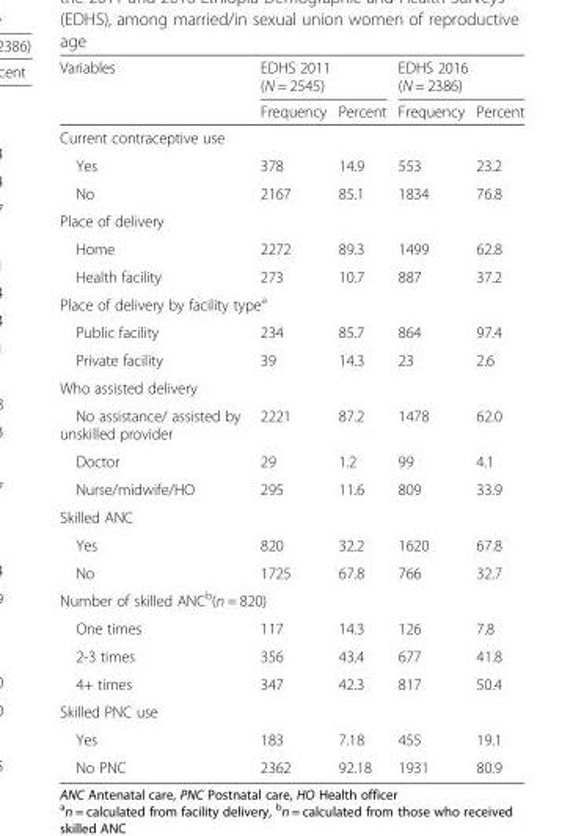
<table><thead><tr><td rowspan="2">Variables</td><td colspan="2">EDHS 2011 (N = 2545)</td><td colspan="2">EDHS 2016 (N = 2386)</td></tr><tr><td>Frequency</td><td>Percent</td><td>Frequency</td><td>Percent</td></tr></thead><tbody><tr><td colspan="5">Current contraceptive use</td></tr><tr><td>Yes</td><td>378</td><td>14.9</td><td>553</td><td>23.2</td></tr><tr><td>No</td><td>2167</td><td>85.1</td><td>1834</td><td>76.8</td></tr><tr><td colspan="5">Place of delivery</td></tr><tr><td>Home</td><td>2272</td><td>89.3</td><td>1499</td><td>62.8</td></tr><tr><td>Health facility</td><td>273</td><td>10.7</td><td>887</td><td>37.2</td></tr><tr><td colspan="5">Place of delivery by facility type<sup>a</sup></td></tr><tr><td>Public facility</td><td>234</td><td>85.7</td><td>864</td><td>97.4</td></tr><tr><td>Private facility</td><td>39</td><td>14.3</td><td>23</td><td>2.6</td></tr><tr><td colspan="5">Who assisted delivery</td></tr><tr><td>No assistance/ assisted by unskilled provider</td><td>2221</td><td>87.2</td><td>1478</td><td>62.0</td></tr><tr><td>Doctor</td><td>29</td><td>1.2</td><td>99</td><td>4.1</td></tr><tr><td>Nurse/midwife/HO</td><td>295</td><td>11.6</td><td>809</td><td>33.9</td></tr><tr><td colspan="5">Skilled ANC</td></tr><tr><td>Yes</td><td>820</td><td>32.2</td><td>1620</td><td>67.8</td></tr><tr><td>No</td><td>1725</td><td>67.8</td><td>766</td><td>32.7</td></tr><tr><td colspan="5">Number of skilled ANC<sup>b</sup>(n = 820)</td></tr><tr><td>One times</td><td>117</td><td>14.3</td><td>126</td><td>7.8</td></tr><tr><td>2-3 times</td><td>356</td><td>43.4</td><td>677</td><td>41.8</td></tr><tr><td>4+ times</td><td>347</td><td>42.3</td><td>817</td><td>50.4</td></tr><tr><td colspan="5">Skilled PNC use</td></tr><tr><td>Yes</td><td>183</td><td>7.18</td><td>455</td><td>19.1</td></tr><tr><td>No PNC</td><td>2362</td><td>92.18</td><td>1931</td><td>80.9</td></tr></tbody></table>